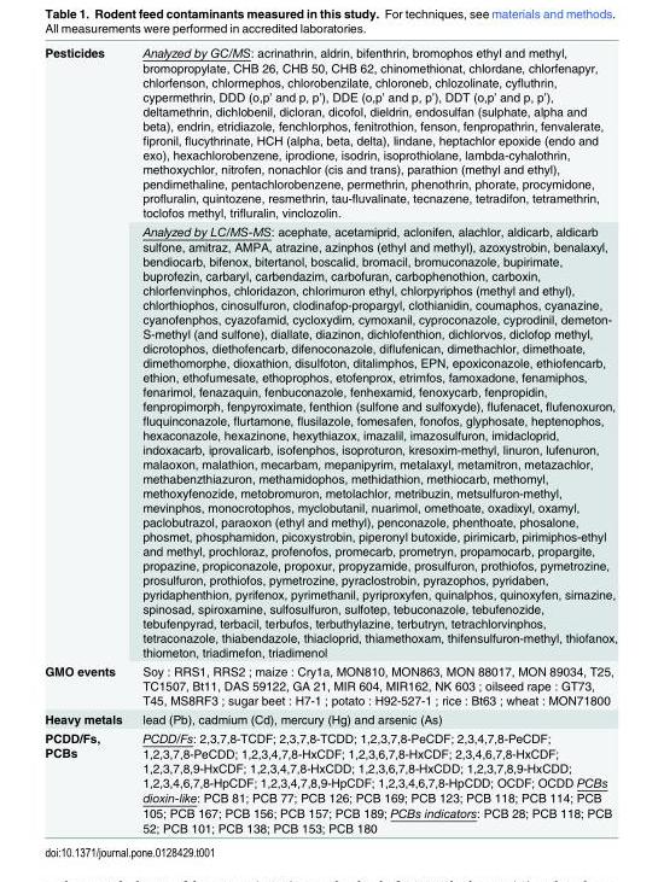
<table><tbody><tr><td rowspan="2">Pesticides</td><td>Analyzed by GC/MS: acrinathrin, aldrin, bifenthrin, bromophos ethyl and methyl, bromopropylate, CHB 26, CHB 50, CHB 62, chinomethionat, chlordane, chlorfenapyr, chlorfenson, chlormephos, chlorobenzilate, chloroneb, chlozolinate, cyfluthrin, cypermethrin, DDD (o,p’ and p, p’), DDE (o,p’ and p, p’), DDT (o,p’ and p, p’), deltamethrin, dichlobenil, dicloran, dicofol, dieldrin, endosulfan (sulphate, alpha and beta), endrin, etridiazole, fenchlorphos, fenitrothion, fenson, fenpropathrin, fenvalerate, fipronil, flucythrinate, HCH (alpha, beta, delta), lindane, heptachlor epoxide (endo and exo), hexachlorobenzene, iprodione, isodrin, isoprothiolane, lambda-cyhalothrin, methoxychlor, nitrofen, nonachlor (cis and trans), parathion (methyl and ethyl), pendimethaline, pentachlorobenzene, permethrin, phenothrin, phorate, procymidone, profluralin, quintozene, resmethrin, tau-fluvalinate, tecnazene, tetradifon, tetramethrin, toclofos methyl, trifluralin, vinclozolin.</td></tr><tr><td>Analyzed by LC/MS-MS: acephate, acetamiprid, aclonifen, alachlor, aldicarb, aldicarb sulfone, amitraz, AMPA, atrazine, azinphos (ethyl and methyl), azoxystrobin, benalaxyl, bendiocarb, bifenox, bitertanol, boscalid, bromacil, bromuconazole, bupirimate, buprofezin, carbaryl, carbendazim, carbofuran, carbophenothion, carboxin, chlorfenvinphos, chloridazon, chlorimuron ethyl, chlorpyriphos (methyl and ethyl), chlorthiophos, cinosulfuron, clodinafop-propargyl, clothianidin, coumaphos, cyanazine, cyanofenphos, cyazofamid, cycloxydim, cymoxanil, cyproconazole, cyprodinil, demeton- S-methyl (and sulfone), diallate, diazinon, dichlofenthion, dichlorvos, diclofop methyl, dicrotophos, diethofencarb, difenoconazole, diflufenican, dimethachlor, dimethoate, dimethomorphe, dioxathion, disulfoton, ditalimphos, EPN, epoxiconazole, ethiofencarb, ethion, ethofumesate, ethoprophos, etofenprox, etrimfos, famoxadone, fenamiphos, fenarimol, fenazaquin, fenbuconazole, fenhexamid, fenoxycarb, fenpropidin, fenpropimorph, fenpyroximate, fenthion (sulfone and sulfoxyde), flufenacet, flufenoxuron, fluquinconazole, flurtamone, flusilazole, fomesafen, fonofos, glyphosate, heptenophos, hexaconazole, hexazinone, hexythiazox, imazalil, imazosulfuron, imidacloprid, indoxacarb, iprovalicarb, isofenphos, isoproturon, kresoxim-methyl, linuron, lufenuron, malaoxon, malathion, mecarbam, mepanipyrim, metalaxyl, metamitron, metazachlor, methabenzthiazuron, methamidophos, methidathion, methiocarb, methomyl, methoxyfenozide, metobromuron, metolachlor, metribuzin, metsulfuron-methyl, mevinphos, monocrotophos, myclobutanil, nuarimol, omethoate, oxadixyl, oxamyl, paclobutrazol, paraoxon (ethyl and methyl), penconazole, phenthoate, phosalone, phosmet, phosphamidon, picoxystrobin, piperonyl butoxide, pirimicarb, pirimiphos-ethyl and methyl, prochloraz, profenofos, promecarb, prometryn, propamocarb, propargite, propazine, propiconazole, propoxur, propyzamide, prosulfuron, prothiofos, pymetrozine, prosulfuron, prothiofos, pymetrozine, pyraclostrobin, pyrazophos, pyridaben, pyridaphenthion, pyrifenox, pyrimethanil, pyriproxyfen, quinalphos, quinoxyfen, simazine, spinosad, spiroxamine, sulfosulfuron, sulfotep, tebuconazole, tebufenozide, tebufenpyrad, terbacil, terbufos, terbuthylazine, terbutryn, tetrachlorvinphos, tetraconazole, thiabendazole, thiacloprid, thiamethoxam, thifensulfuron-methyl, thiofanox, thiometon, triadimefon, triadimenol</td></tr><tr><td>GMO events</td><td>Soy : RRS1, RRS2 ; maize : Cry1a, MON810, MON863, MON 88017, MON 89034, T25, TC1507, Bt11, DAS 59122, GA 21, MIR 604, MIR162, NK 603 ; oilseed rape : GT73, T45, MS8RF3 ; sugar beet : H7-1 ; potato : H92-527-1 ; rice : Bt63 ; wheat : MON71800</td></tr><tr><td>Heavy metals</td><td>lead (Pb), cadmium (Cd), mercury (Hg) and arsenic (As)</td></tr><tr><td>PCDD/Fs, PCBs</td><td>PCDD/Fs: 2,3,7,8-TCDF; 2,3,7,8-TCDD; 1,2,3,7,8-PeCDF; 2,3,4,7,8-PeCDF; 1,2,3,7,8-PeCDD; 1,2,3,4,7,8-HxCDF; 1,2,3,6,7,8-HxCDF; 2,3,4,6,7,8-HxCDF; 1,2,3,7,8,9-HxCDF; 1,2,3,4,7,8-HxCDD; 1,2,3,6,7,8-HxCDD; 1,2,3,7,8,9-HxCDD; 1,2,3,4,6,7,8-HpCDF; 1,2,3,4,7,8,9-HpCDF; 1,2,3,4,6,7,8-HpCDD; OCDF; OCDD PCBs dioxin-like: PCB 81; PCB 77; PCB 126; PCB 169; PCB 123; PCB 118; PCB 114; PCB 105; PCB 167; PCB 156; PCB 157; PCB 189; PCBs indicators: PCB 28; PCB 118; PCB 52; PCB 101; PCB 138; PCB 153; PCB 180</td></tr></tbody></table>